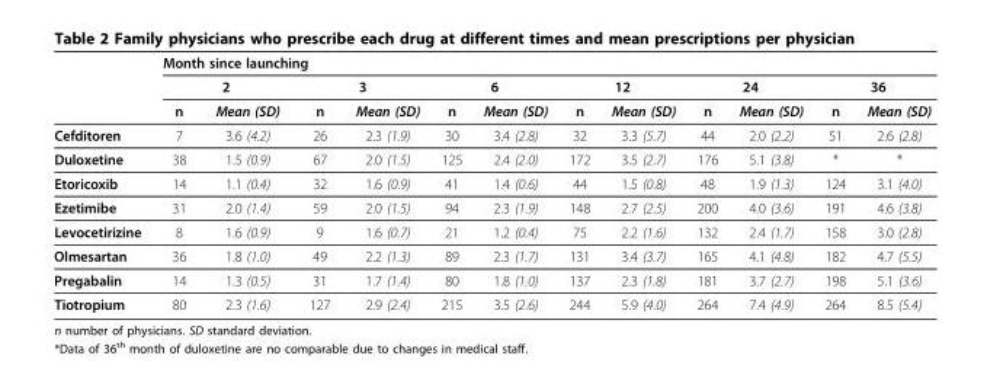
<table><thead><tr><td rowspan="3"></td><td colspan="3">Month since launching</td><td></td><td></td><td></td><td></td><td></td><td></td><td></td><td></td><td></td></tr><tr><td colspan="2">2</td><td colspan="2">3</td><td colspan="2">6</td><td colspan="2">12</td><td colspan="2">24</td><td colspan="2">36</td></tr><tr><td>n</td><td>Mean (SD)</td><td>n</td><td>Mean (SD)</td><td>n</td><td>Mean (SD)</td><td>n</td><td>Mean (SD)</td><td>n</td><td>Mean (SD)</td><td>n</td><td>Mean (SD)</td></tr></thead><tbody><tr><td>Cefditoren</td><td>7</td><td>3.6 (4.2)</td><td>26</td><td>2.3 (1.9)</td><td>30</td><td>3.4 (2.8)</td><td>32</td><td>3.3 (5.7)</td><td>44</td><td>2.0 (2.2)</td><td>51</td><td>2.6 (2.8)</td></tr><tr><td>Duloxetine</td><td>38</td><td>1.5 (0.9)</td><td>67</td><td>2.0 (1.5)</td><td>125</td><td>2.4 (2.0)</td><td>172</td><td>3.5 (2.7)</td><td>176</td><td>5.1 (3.8)</td><td>*</td><td>*</td></tr><tr><td>Etoricoxib</td><td>14</td><td>1.1 (0.4)</td><td>32</td><td>1.6 (0.9)</td><td>41</td><td>1.4 (0.6)</td><td>44</td><td>1.5 (0.8)</td><td>48</td><td>1.9 (1.3)</td><td>124</td><td>3.1 (4.0)</td></tr><tr><td>Ezetimibe</td><td>31</td><td>2.0 (1.4)</td><td>59</td><td>2.0 (1.5)</td><td>94</td><td>2.3 (1.9)</td><td>148</td><td>2.7 (2.5)</td><td>200</td><td>4.0 (3.6)</td><td>191</td><td>4.6 (3.8)</td></tr><tr><td>Levocetirizine</td><td>8</td><td>1.6 (0.9)</td><td>9</td><td>1.6 (0.7)</td><td>21</td><td>1.2 (0.4)</td><td>75</td><td>2.2 (1.6)</td><td>132</td><td>2.4 (1.7)</td><td>158</td><td>3.0 (2.8)</td></tr><tr><td>Olmesartan</td><td>36</td><td>1.8 (1.0)</td><td>49</td><td>2.2 (1.3)</td><td>89</td><td>2.3 (1.7)</td><td>131</td><td>3.4 (3.7)</td><td>165</td><td>4.1 (4.8)</td><td>182</td><td>4.7 (5.5)</td></tr><tr><td>Pregabalin</td><td>14</td><td>1.3 (0.5)</td><td>31</td><td>1.7 (1.4)</td><td>80</td><td>1.8 (1.0)</td><td>137</td><td>2.3 (1.8)</td><td>181</td><td>3.7 (2.7)</td><td>198</td><td>5.1 (3.6)</td></tr><tr><td>Tiotropium</td><td>80</td><td>2.3 (1.6)</td><td>127</td><td>2.9 (2.4)</td><td>215</td><td>3.5 (2.6)</td><td>244</td><td>5.9 (4.0)</td><td>264</td><td>7.4 (4.9)</td><td>264</td><td>8.5 (5.4)</td></tr></tbody></table>